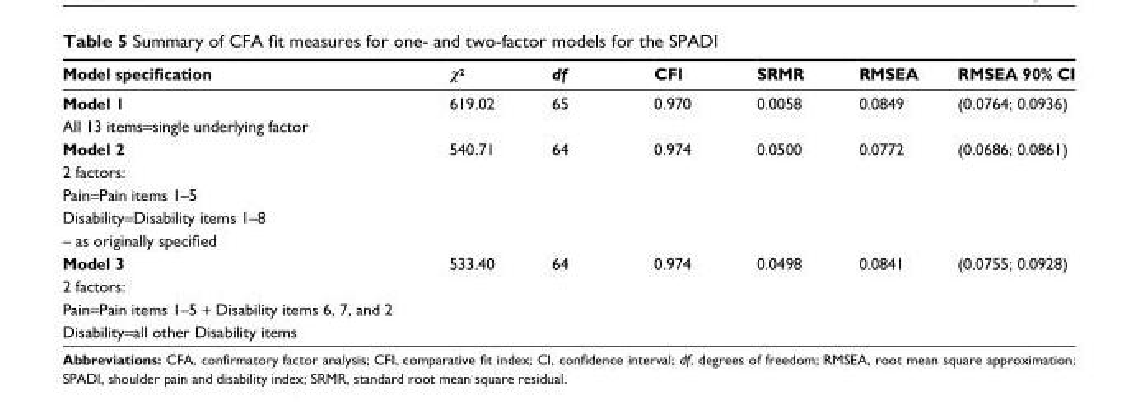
<table><thead><tr><td>Model specification</td><td>χ<sup>2</sup></td><td>df</td><td>CFI</td><td>SRMR</td><td>RMSEA</td><td>RMSEA 90% CI</td></tr></thead><tbody><tr><td>Model 1 All 13 items=single underlying factor</td><td>619.02</td><td>65</td><td>0.970</td><td>0.0058</td><td>0.0849</td><td>(0.0764; 0.0936)</td></tr><tr><td>Model 2 2 factors: Pain=Pain items 1–5 Disability=Disability items 1–8 – as originally specified</td><td>540.71</td><td>64</td><td>0.974</td><td>0.0500</td><td>0.0772</td><td>(0.0686; 0.0861)</td></tr><tr><td>Model 3 2 factors: Pain=Pain items 1–5 + Disability items 6, 7, and 2 Disability=all other Disability items</td><td>533.40</td><td>64</td><td>0.974</td><td>0.0498</td><td>0.0841</td><td>(0.0755; 0.0928)</td></tr></tbody></table>